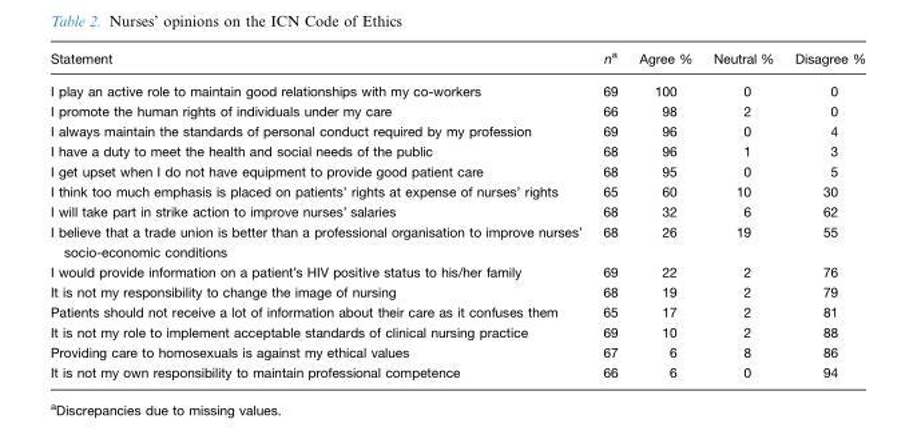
<table><thead><tr><td>Statement</td><td>na</td><td>Agree %</td><td>Neutral %</td><td>Disagree %</td></tr></thead><tbody><tr><td>I play an active role to maintain good relationships with my co-workers</td><td>69</td><td>100</td><td>0</td><td>0</td></tr><tr><td>I promote the human rights of individuals under my care</td><td>66</td><td>98</td><td>2</td><td>0</td></tr><tr><td>I always maintain the standards of personal conduct required by my profession</td><td>69</td><td>96</td><td>0</td><td>4</td></tr><tr><td>I have a duty to meet the health and social needs of the public</td><td>68</td><td>96</td><td>1</td><td>3</td></tr><tr><td>I get upset when I do not have equipment to provide good patient care</td><td>68</td><td>95</td><td>0</td><td>5</td></tr><tr><td>I think too much emphasis is placed on patients’ rights at expense of nurses’ rights</td><td>65</td><td>60</td><td>10</td><td>30</td></tr><tr><td>I will take part in strike action to improve nurses’ salaries</td><td>68</td><td>32</td><td>6</td><td>62</td></tr><tr><td>I believe that a trade union is better than a professional organisation to improve nurses’ socio-economic conditions</td><td>68</td><td>26</td><td>19</td><td>55</td></tr><tr><td>I would provide information on a patient’s HIV positive status to his/her family</td><td>69</td><td>22</td><td>2</td><td>76</td></tr><tr><td>It is not my responsibility to change the image of nursing</td><td>68</td><td>19</td><td>2</td><td>79</td></tr><tr><td>Patients should not receive a lot of information about their care as it confuses them</td><td>65</td><td>17</td><td>2</td><td>81</td></tr><tr><td>It is not my role to implement acceptable standards of clinical nursing practice</td><td>69</td><td>10</td><td>2</td><td>88</td></tr><tr><td>Providing care to homosexuals is against my ethical values</td><td>67</td><td>6</td><td>8</td><td>86</td></tr><tr><td>It is not my own responsibility to maintain professional competence</td><td>66</td><td>6</td><td>0</td><td>94</td></tr></tbody></table>